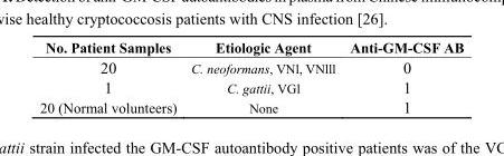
<table><thead><tr><td>No. Patient Samples</td><td>Etiologic Agent</td><td>Anti-GM-CSF AB</td></tr></thead><tbody><tr><td>20</td><td>C. neoformans, VNl, VNlll</td><td>0</td></tr><tr><td>1</td><td>C. gattii, VGl</td><td>1</td></tr><tr><td>20 (Normal volunteers)</td><td>None</td><td>1</td></tr></tbody></table>